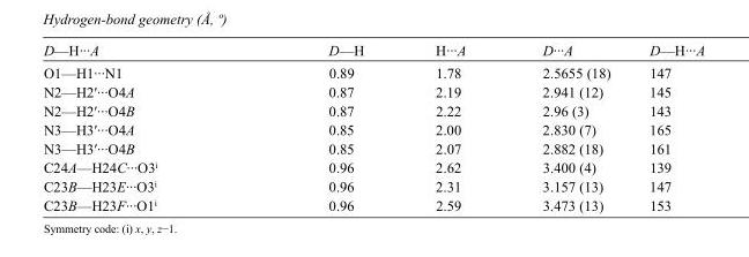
<table><tbody><tr><td>D—H···A</td><td>D—H</td><td>H···A</td><td>D···A</td><td>D—H···A</td></tr><tr><td>O1—H1···N1</td><td>0.89</td><td>1.78</td><td>2.5655 (18)</td><td>147</td></tr><tr><td>N2—H2′···O4A</td><td>0.87</td><td>2.19</td><td>2.941 (12)</td><td>145</td></tr><tr><td>N2—H2′···O4B</td><td>0.87</td><td>2.22</td><td>2.96 (3)</td><td>143</td></tr><tr><td>N3—H3′···O4A</td><td>0.85</td><td>2.00</td><td>2.830 (7)</td><td>165</td></tr><tr><td>N3—H3′···O4B</td><td>0.85</td><td>2.07</td><td>2.882 (18)</td><td>161</td></tr><tr><td>C24A—H24C···O3<sup>i</sup></td><td>0.96</td><td>2.62</td><td>3.400 (4)</td><td>139</td></tr><tr><td>C23B—H23E···O3<sup>i</sup></td><td>0.96</td><td>2.31</td><td>3.157 (13)</td><td>147</td></tr><tr><td>C23B—H23F···O1<sup>i</sup></td><td>0.96</td><td>2.59</td><td>3.473 (13)</td><td>153</td></tr></tbody></table>